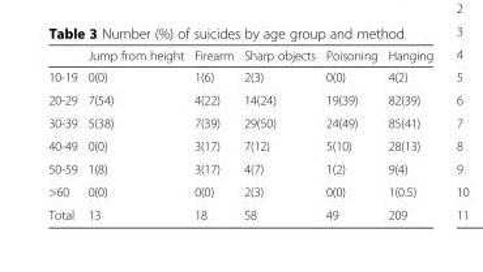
<table><thead><tr><td></td><td>Jump from height</td><td>Firearm</td><td>Sharp objects</td><td>Poisoning</td><td>Hanging</td></tr></thead><tbody><tr><td>10-19</td><td>0(0)</td><td>1(6)</td><td>2(3)</td><td>0(0)</td><td>4(2)</td></tr><tr><td>20-29</td><td>7(54)</td><td>4(22)</td><td>14(24)</td><td>19(39)</td><td>82(39)</td></tr><tr><td>30-39</td><td>5(38)</td><td>7(39)</td><td>29(50)</td><td>24(49)</td><td>85(41)</td></tr><tr><td>40-49</td><td>0(0)</td><td>3(17)</td><td>7(12)</td><td>5(10)</td><td>28(13)</td></tr><tr><td>50-59</td><td>1(8)</td><td>3(17)</td><td>4(7)</td><td>1(2)</td><td>9(4)</td></tr><tr><td>&gt;60</td><td>0(0)</td><td>0(0)</td><td>2(3)</td><td>0(0)</td><td>1(0.5)</td></tr><tr><td>Total</td><td>13</td><td>18</td><td>58</td><td>49</td><td>209</td></tr></tbody></table>